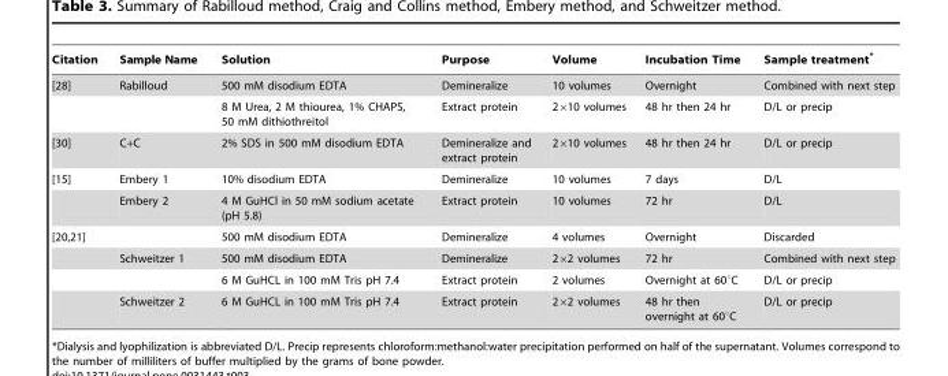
<table><thead><tr><td>Citation</td><td>Sample Name</td><td>Solution</td><td>Purpose</td><td>Volume</td><td>Incubation Time</td><td>Sample treatment*</td></tr></thead><tbody><tr><td rowspan="2">[28]</td><td>Rabilloud</td><td>500 mM disodium EDTA</td><td>Demineralize</td><td>10 volumes</td><td>Overnight</td><td>Combined with next step</td></tr><tr><td></td><td>8 M Urea, 2 M thiourea, 1% CHAPS, 50 mM dithiothreitol</td><td>Extract protein</td><td>2×10 volumes</td><td>48 hr then 24 hr</td><td>D/L or precip</td></tr><tr><td>[30]</td><td>C+C</td><td>2% SDS in 500 mM disodium EDTA</td><td>Demineralize and extract protein</td><td>2×10 volumes</td><td>48 hr then 24 hr</td><td>D/L or precip</td></tr><tr><td rowspan="2">[15]</td><td>Embery 1</td><td>10% disodium EDTA</td><td>Demineralize</td><td>10 volumes</td><td>7 days</td><td>D/L</td></tr><tr><td>Embery 2</td><td>4 M GuHCl in 50 mM sodium acetate (pH 5.8)</td><td>Extract protein</td><td>10 volumes</td><td>72 hr</td><td>D/L</td></tr><tr><td rowspan="4">[20,21]</td><td></td><td>500 mM disodium EDTA</td><td>Demineralize</td><td>4 volumes</td><td>Overnight</td><td>Discarded</td></tr><tr><td>Schweitzer 1</td><td>500 mM disodium EDTA</td><td>Demineralize</td><td>2×2 volumes</td><td>72 hr</td><td>Combined with next step</td></tr><tr><td></td><td>6 M GuHCL in 100 mM Tris pH 7.4</td><td>Extract protein</td><td>2 volumes</td><td>Overnight at 60°C</td><td>D/L or precip</td></tr><tr><td>Schweitzer 2</td><td>6 M GuHCL in 100 mM Tris pH 7.4</td><td>Extract protein</td><td>2×2 volumes</td><td>48 hr then overnight at 60°C</td><td>D/L or precip</td></tr></tbody></table>